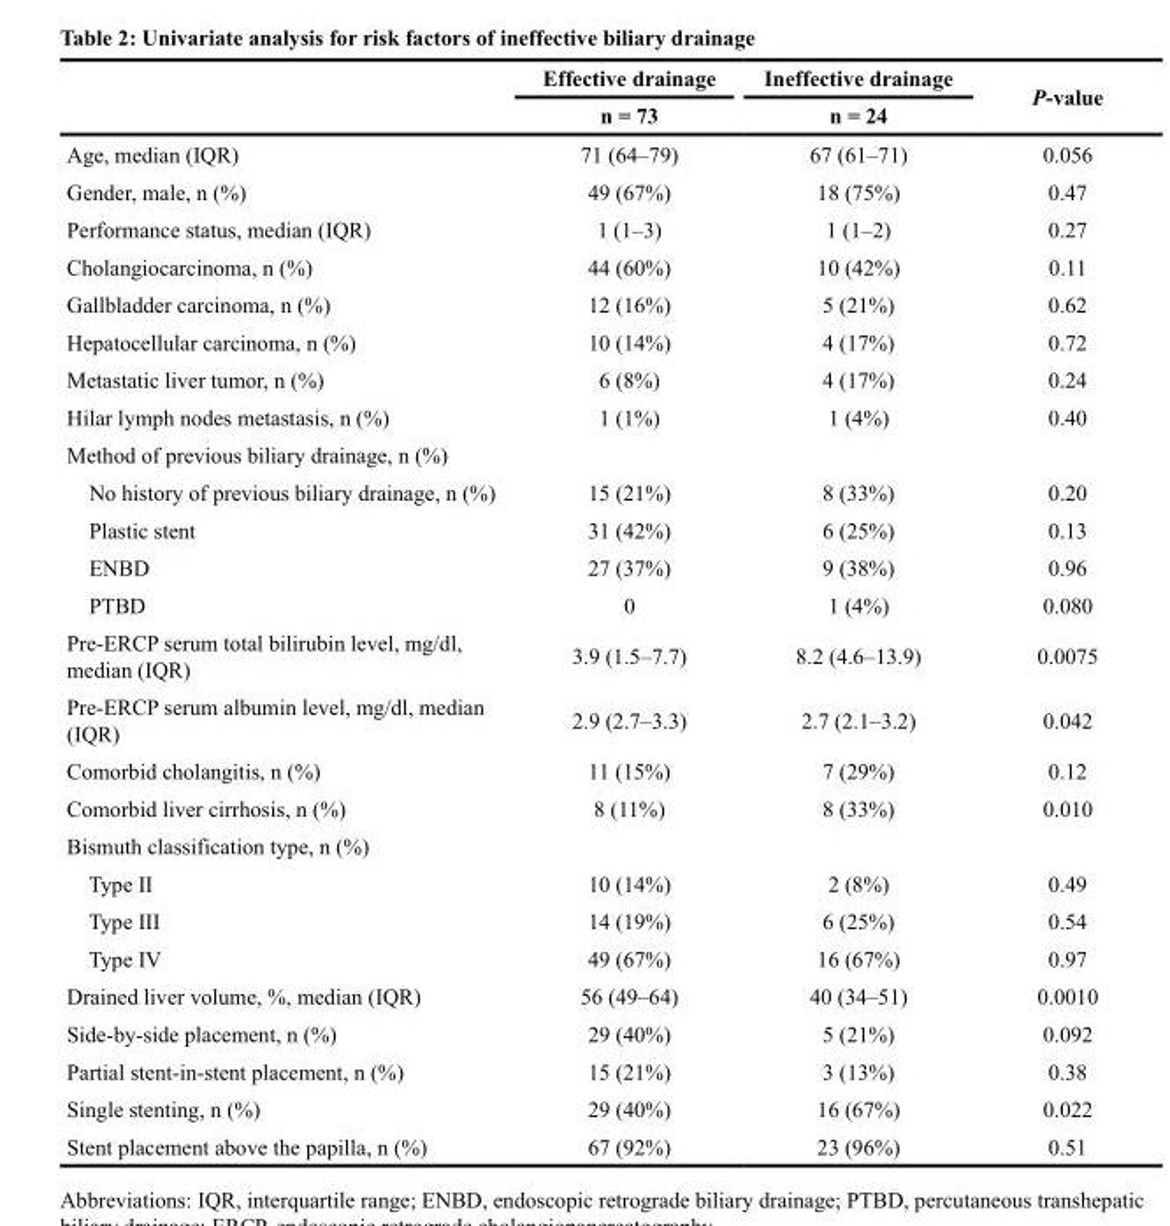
<table><thead><tr><td rowspan="2"></td><td rowspan="2">Effective drainage n = 73</td><td rowspan="2">Ineffective drainage n = 24</td><td rowspan="2">P-value</td></tr><tr></tr></thead><tbody><tr><td>Age, median (IQR)</td><td>71 (64–79)</td><td>67 (61–71)</td><td>0.056</td></tr><tr><td>Gender, male, n (%)</td><td>49 (67%)</td><td>18 (75%)</td><td>0.47</td></tr><tr><td>Performance status, median (IQR)</td><td>1 (1–3)</td><td>1 (1–2)</td><td>0.27</td></tr><tr><td>Cholangiocarcinoma, n (%)</td><td>44 (60%)</td><td>10 (42%)</td><td>0.11</td></tr><tr><td>Gallbladder carcinoma, n (%)</td><td>12 (16%)</td><td>5 (21%)</td><td>0.62</td></tr><tr><td>Hepatocellular carcinoma, n (%)</td><td>10 (14%)</td><td>4 (17%)</td><td>0.72</td></tr><tr><td>Metastatic liver tumor, n (%)</td><td>6 (8%)</td><td>4 (17%)</td><td>0.24</td></tr><tr><td>Hilar lymph nodes metastasis, n (%)</td><td>1 (1%)</td><td>1 (4%)</td><td>0.40</td></tr><tr><td colspan="4">Method of previous biliary drainage, n (%)</td></tr><tr><td>No history of previous biliary drainage, n (%)</td><td>15 (21%)</td><td>8 (33%)</td><td>0.20</td></tr><tr><td>Plastic stent</td><td>31 (42%)</td><td>6 (25%)</td><td>0.13</td></tr><tr><td>ENBD</td><td>27 (37%)</td><td>9 (38%)</td><td>0.96</td></tr><tr><td>PTBD</td><td>0</td><td>1 (4%)</td><td>0.080</td></tr><tr><td>Pre-ERCP serum total bilirubin level, mg/dl, median (IQR)</td><td>3.9 (1.5–7.7)</td><td>8.2 (4.6–13.9)</td><td>0.0075</td></tr><tr><td>Pre-ERCP serum albumin level, mg/dl, median (IQR)</td><td>2.9 (2.7–3.3)</td><td>2.7 (2.1–3.2)</td><td>0.042</td></tr><tr><td>Comorbid cholangitis, n (%)</td><td>11 (15%)</td><td>7 (29%)</td><td>0.12</td></tr><tr><td>Comorbid liver cirrhosis, n (%)</td><td>8 (11%)</td><td>8 (33%)</td><td>0.010</td></tr><tr><td colspan="4">Bismuth classification type, n (%)</td></tr><tr><td>Type II</td><td>10 (14%)</td><td>2 (8%)</td><td>0.49</td></tr><tr><td>Type III</td><td>14 (19%)</td><td>6 (25%)</td><td>0.54</td></tr><tr><td>Type IV</td><td>49 (67%)</td><td>16 (67%)</td><td>0.97</td></tr><tr><td>Drained liver volume, %, median (IQR)</td><td>56 (49–64)</td><td>40 (34–51)</td><td>0.0010</td></tr><tr><td>Side-by-side placement, n (%)</td><td>29 (40%)</td><td>5 (21%)</td><td>0.092</td></tr><tr><td>Partial stent-in-stent placement, n (%)</td><td>15 (21%)</td><td>3 (13%)</td><td>0.38</td></tr><tr><td>Single stenting, n (%)</td><td>29 (40%)</td><td>16 (67%)</td><td>0.022</td></tr><tr><td>Stent placement above the papilla, n (%)</td><td>67 (92%)</td><td>23 (96%)</td><td>0.51</td></tr></tbody></table>